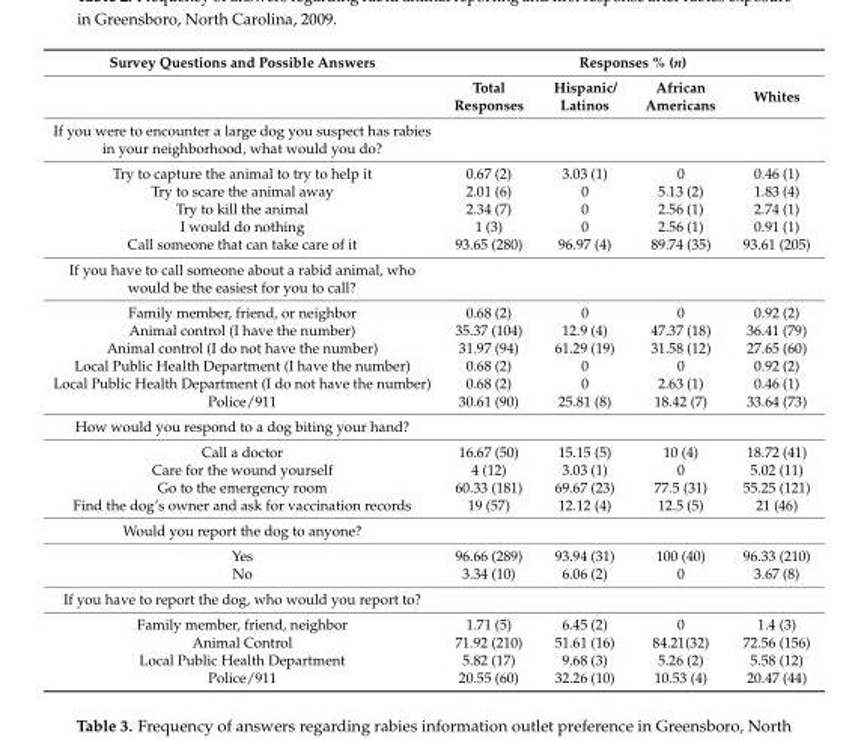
<table><thead><tr><td rowspan="2">Survey Questions and Possible Answers</td><td colspan="4">Responses % (n)</td></tr><tr><td>Total Responses</td><td>Hispanic/ Latinos</td><td>African Americans</td><td>Whites</td></tr></thead><tbody><tr><td colspan="5">If you were to encounter a large dog you suspect has rabies in your neighborhood, what would you do?</td></tr><tr><td>Try to capture the animal to try to help it</td><td>0.67 (2)</td><td>3.03 (1)</td><td>0</td><td>0.46 (1)</td></tr><tr><td>Try to scare the animal away</td><td>2.01 (6)</td><td>0</td><td>5.13 (2)</td><td>1.83 (4)</td></tr><tr><td>Try to kill the animal</td><td>2.34 (7)</td><td>0</td><td>2.56 (1)</td><td>2.74 (1)</td></tr><tr><td>I would do nothing</td><td>1 (3)</td><td>0</td><td>2.56 (1)</td><td>0.91 (1)</td></tr><tr><td>Call someone that can take care of it</td><td>93.65 (280)</td><td>96.97 (4)</td><td>89.74 (35)</td><td>93.61 (205)</td></tr><tr><td colspan="5">If you have to call someone about a rabid animal, who would be the easiest for you to call?</td></tr><tr><td>Family member, friend, or neighbor</td><td>0.68 (2)</td><td>0</td><td>0</td><td>0.92 (2)</td></tr><tr><td>Animal control (I have the number)</td><td>35.37 (104)</td><td>12.9 (4)</td><td>47.37 (18)</td><td>36.41 (79)</td></tr><tr><td>Animal control (I do not have the number)</td><td>31.97 (94)</td><td>61.29 (19)</td><td>31.58 (12)</td><td>27.65 (60)</td></tr><tr><td>Local Public Health Department (I have the number)</td><td>0.68 (2)</td><td>0</td><td>0</td><td>0.92 (2)</td></tr><tr><td>Local Public Health Department (I do not have the number)</td><td>0.68 (2)</td><td>0</td><td>2.63 (1)</td><td>0.46 (1)</td></tr><tr><td>Police/911</td><td>30.61 (90)</td><td>25.81 (8)</td><td>18.42 (7)</td><td>33.64 (73)</td></tr><tr><td colspan="5">How would you respond to a dog biting your hand?</td></tr><tr><td>Call a doctor</td><td>16.67 (50)</td><td>15.15 (5)</td><td>10 (4)</td><td>18.72 (41)</td></tr><tr><td>Care for the wound yourself</td><td>4 (12)</td><td>3.03 (1)</td><td>0</td><td>5.02 (11)</td></tr><tr><td>Go to the emergency room</td><td>60.33 (181)</td><td>69.67 (23)</td><td>77.5 (31)</td><td>55.25 (121)</td></tr><tr><td>Find the dog’s owner and ask for vaccination records</td><td>19 (57)</td><td>12.12 (4)</td><td>12.5 (5)</td><td>21 (46)</td></tr><tr><td colspan="5">Would you report the dog to anyone?</td></tr><tr><td>Yes</td><td>96.66 (289)</td><td>93.94 (31)</td><td>100 (40)</td><td>96.33 (210)</td></tr><tr><td>No</td><td>3.34 (10)</td><td>6.06 (2)</td><td>0</td><td>3.67 (8)</td></tr><tr><td colspan="5">If you have to report the dog, who would you report to?</td></tr><tr><td>Family member, friend, neighbor</td><td>1.71 (5)</td><td>6.45 (2)</td><td>0</td><td>1.4 (3)</td></tr><tr><td>Animal Control</td><td>71.92 (210)</td><td>51.61 (16)</td><td>84.21(32)</td><td>72.56 (156)</td></tr><tr><td>Local Public Health Department</td><td>5.82 (17)</td><td>9.68 (3)</td><td>5.26 (2)</td><td>5.58 (12)</td></tr><tr><td>Police/911</td><td>20.55 (60)</td><td>32.26 (10)</td><td>10.53 (4)</td><td>20.47 (44)</td></tr></tbody></table>